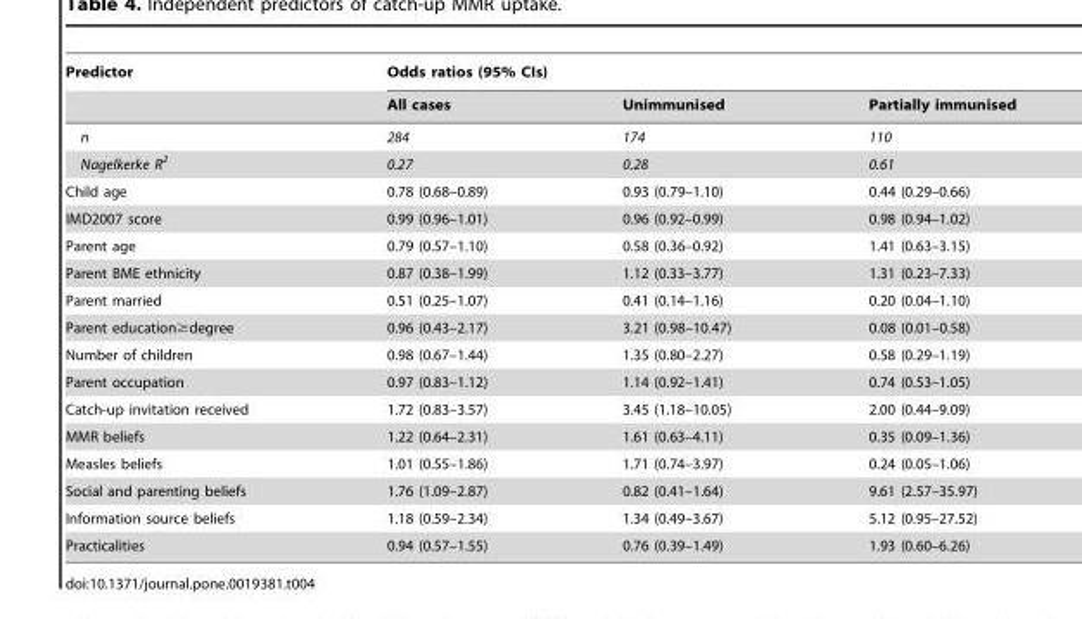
<table><thead><tr><td rowspan="2">Predictor</td><td colspan="3">Odds ratios (95% CIs)</td></tr><tr><td>All cases</td><td>Unimmunised</td><td>Partially immunised</td></tr></thead><tbody><tr><td>n</td><td>284</td><td>174</td><td>110</td></tr><tr><td>Nagelkerke R<sup>2</sup></td><td>0.27</td><td>0.28</td><td>0.61</td></tr><tr><td>Child age</td><td>0.78 (0.68–0.89)</td><td>0.93 (0.79–1.10)</td><td>0.44 (0.29–0.66)</td></tr><tr><td>IMD2007 score</td><td>0.99 (0.96–1.01)</td><td>0.96 (0.92–0.99)</td><td>0.98 (0.94–1.02)</td></tr><tr><td>Parent age</td><td>0.79 (0.57–1.10)</td><td>0.58 (0.36–0.92)</td><td>1.41 (0.63–3.15)</td></tr><tr><td>Parent BME ethnicity</td><td>0.87 (0.38–1.99)</td><td>1.12 (0.33–3.77)</td><td>1.31 (0.23–7.33)</td></tr><tr><td>Parent married</td><td>0.51 (0.25–1.07)</td><td>0.41 (0.14–1.16)</td><td>0.20 (0.04–1.10)</td></tr><tr><td>Parent education≥degree</td><td>0.96 (0.43–2.17)</td><td>3.21 (0.98–10.47)</td><td>0.08 (0.01–0.58)</td></tr><tr><td>Number of children</td><td>0.98 (0.67–1.44)</td><td>1.35 (0.80–2.27)</td><td>0.58 (0.29–1.19)</td></tr><tr><td>Parent occupation</td><td>0.97 (0.83–1.12)</td><td>1.14 (0.92–1.41)</td><td>0.74 (0.53–1.05)</td></tr><tr><td>Catch-up invitation received</td><td>1.72 (0.83–3.57)</td><td>3.45 (1.18–10.05)</td><td>2.00 (0.44–9.09)</td></tr><tr><td>MMR beliefs</td><td>1.22 (0.64–2.31)</td><td>1.61 (0.63–4.11)</td><td>0.35 (0.09–1.36)</td></tr><tr><td>Measles beliefs</td><td>1.01 (0.55–1.86)</td><td>1.71 (0.74–3.97)</td><td>0.24 (0.05–1.06)</td></tr><tr><td>Social and parenting beliefs</td><td>1.76 (1.09–2.87)</td><td>0.82 (0.41–1.64)</td><td>9.61 (2.57–35.97)</td></tr><tr><td>Information source beliefs</td><td>1.18 (0.59–2.34)</td><td>1.34 (0.49–3.67)</td><td>5.12 (0.95–27.52)</td></tr><tr><td>Practicalities</td><td>0.94 (0.57–1.55)</td><td>0.76 (0.39–1.49)</td><td>1.93 (0.60–6.26)</td></tr></tbody></table>